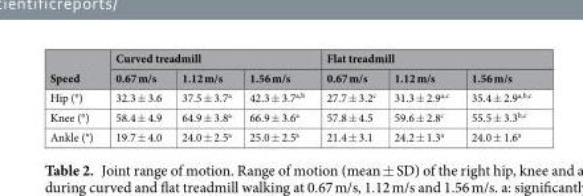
<table><thead><tr><td rowspan="2">Speed</td><td colspan="3">Curved treadmill</td><td colspan="3">Flat treadmill</td></tr><tr><td>0.67 m/s</td><td>1.12 m/s</td><td>1.56 m/s</td><td>0.67 m/s</td><td>1.12 m/s</td><td>1.56 m/s</td></tr></thead><tbody><tr><td>Hip (°)</td><td>32.3 ± 3.6</td><td>37.5 ± 3.7<sup>a</sup></td><td>42.3 ± 3.7<sup>a,b</sup></td><td>27.7 ± 3.2<sup>c</sup></td><td>31.3 ± 2.9<sup>a,c</sup></td><td>35.4 ± 2.9<sup>a,b,c</sup></td></tr><tr><td>Knee (°)</td><td>58.4 ± 4.9</td><td>64.9 ± 3.8<sup>a</sup></td><td>66.9 ± 3.6<sup>a</sup></td><td>57.8 ± 4.5</td><td>59.6 ± 2.8<sup>c</sup></td><td>55.5 ± 3.3<sup>b,c</sup></td></tr><tr><td>Ankle (°)</td><td>19.7 ± 4.0</td><td>24.0 ± 2.5<sup>a</sup></td><td>25.0 ± 2.5<sup>a</sup></td><td>21.4 ± 3.1</td><td>24.2 ± 1.3<sup>a</sup></td><td>24.0 ± 1.6<sup>a</sup></td></tr></tbody></table>